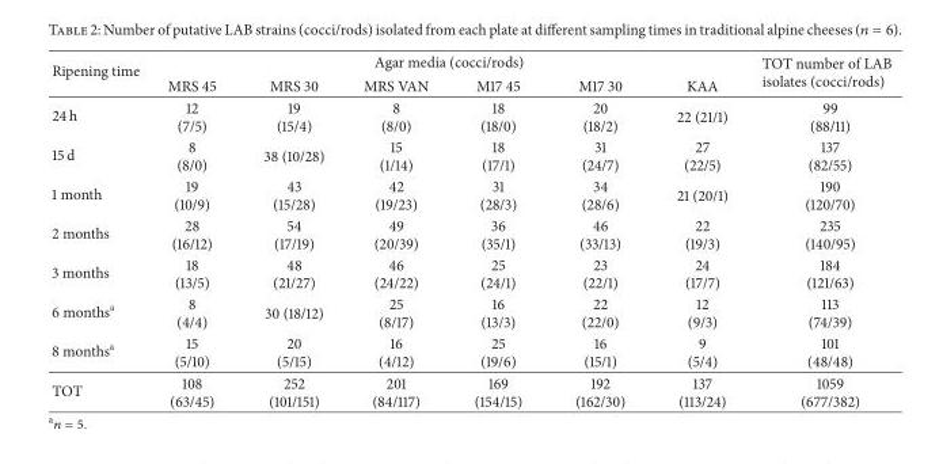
<table><thead><tr><td rowspan="2">Ripening time</td><td colspan="6">Agar media (cocci/rods)</td><td rowspan="2">TOT number of LAB isolates (cocci/rods)</td></tr><tr><td>MRS 45</td><td>MRS 30</td><td>MRS VAN</td><td>M17 45</td><td>M17 30</td><td>KAA</td></tr></thead><tbody><tr><td>24 h</td><td>12 (7/5)</td><td>19 (15/4)</td><td>8 (8/0)</td><td>18 (18/0)</td><td>20 (18/2)</td><td>22 (21/1)</td><td>99 (88/11)</td></tr><tr><td>15 d</td><td>8 (8/0)</td><td>38 (10/28)</td><td>15 (1/14)</td><td>18 (17/1)</td><td>31 (24/7)</td><td>27 (22/5)</td><td>137 (82/55)</td></tr><tr><td>1 month</td><td>19 (10/9)</td><td>43 (15/28)</td><td>42 (19/23)</td><td>31 (28/3)</td><td>34 (28/6)</td><td>21 (20/1)</td><td>190 (120/70)</td></tr><tr><td>2 months</td><td>28 (16/12)</td><td>54 (17/19)</td><td>49 (20/39)</td><td>36 (35/1)</td><td>46 (33/13)</td><td>22 (19/3)</td><td>235 (140/95)</td></tr><tr><td>3 months</td><td>18 (13/5)</td><td>48 (21/27)</td><td>46 (24/22)</td><td>25 (24/1)</td><td>23 (22/1)</td><td>24 (17/7)</td><td>184 (121/63)</td></tr><tr><td>6 months<sup>a</sup></td><td>8 (4/4)</td><td>30 (18/12)</td><td>25 (8/17)</td><td>16 (13/3)</td><td>22 (22/0)</td><td>12 (9/3)</td><td>113 (74/39)</td></tr><tr><td>8 months<sup>a</sup></td><td>15 (5/10)</td><td>20 (5/15)</td><td>16 (4/12)</td><td>25 (19/6)</td><td>16 (15/1)</td><td>9 (5/4)</td><td>101 (48/48)</td></tr><tr><td>TOT</td><td>108 (63/45)</td><td>252 (101/151)</td><td>201 (84/117)</td><td>169 (154/15)</td><td>192 (162/30)</td><td>137 (113/24)</td><td>1059 (677/382)</td></tr></tbody></table>